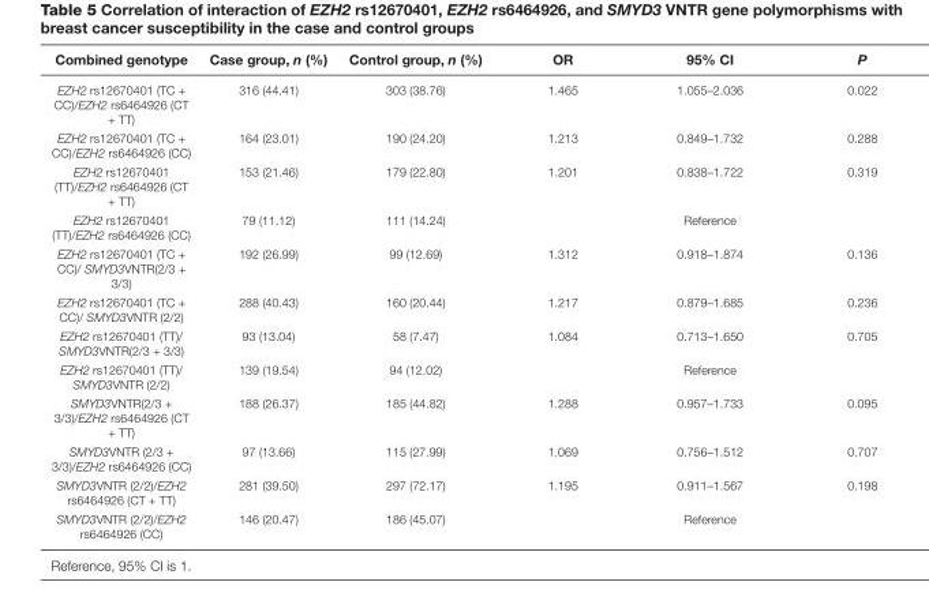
<table><thead><tr><td>Combined genotype</td><td>Case group, n (%)</td><td>Control group, n (%)</td><td>OR</td><td>95% CI</td><td>P</td></tr></thead><tbody><tr><td>EZH2 rs12670401 (TC + CC)/EZH2 rs6464926 (CT + TT)</td><td>316 (44.41)</td><td>303 (38.76)</td><td>1.465</td><td>1.055–2.036</td><td>0.022</td></tr><tr><td>EZH2 rs12670401 (TC + CC)/EZH2 rs6464926 (CC)</td><td>164 (23.01)</td><td>190 (24.20)</td><td>1.213</td><td>0.849–1.732</td><td>0.288</td></tr><tr><td>EZH2 rs12670401 (TT)/EZH2 rs6464926 (CT + TT)</td><td>153 (21.46)</td><td>179 (22.80)</td><td>1.201</td><td>0.838–1.722</td><td>0.319</td></tr><tr><td>EZH2 rs12670401 (TT)/EZH2 rs6464926 (CC)</td><td>79 (11.12)</td><td>111 (14.24)</td><td></td><td>Reference</td><td></td></tr><tr><td>EZH2 rs12670401 (TC + CC)/ SMYD3VNTR(2/3 + 3/3)</td><td>192 (26.99)</td><td>99 (12.69)</td><td>1.312</td><td>0.918–1.874</td><td>0.136</td></tr><tr><td>EZH2 rs12670401 (TC + CC)/ SMYD3VNTR (2/2)</td><td>288 (40.43)</td><td>160 (20.44)</td><td>1.217</td><td>0.879–1.685</td><td>0.236</td></tr><tr><td>EZH2 rs12670401 (TT)/ SMYD3VNTR(2/3 + 3/3)</td><td>93 (13.04)</td><td>58 (7.47)</td><td>1.084</td><td>0.713–1.650</td><td>0.705</td></tr><tr><td>EZH2 rs12670401 (TT)/ SMYD3VNTR (2/2)</td><td>139 (19.54)</td><td>94 (12.02)</td><td></td><td>Reference</td><td></td></tr><tr><td>SMYD3VNTR(2/3 + 3/3)/EZH2 rs6464926 (CT + TT)</td><td>188 (26.37)</td><td>185 (44.82)</td><td>1.288</td><td>0.957–1.733</td><td>0.095</td></tr><tr><td>SMYD3VNTR (2/3 + 3/3)/EZH2 rs6464926 (CC)</td><td>97 (13.66)</td><td>115 (27.99)</td><td>1.069</td><td>0.756–1.512</td><td>0.707</td></tr><tr><td>SMYD3VNTR (2/2)/EZH2 rs6464926 (CT + TT)</td><td>281 (39.50)</td><td>297 (72.17)</td><td>1.195</td><td>0.911–1.567</td><td>0.198</td></tr><tr><td>SMYD3VNTR (2/2)/EZH2 rs6464926 (CC)</td><td>146 (20.47)</td><td>186 (45.07)</td><td></td><td>Reference</td><td></td></tr></tbody></table>